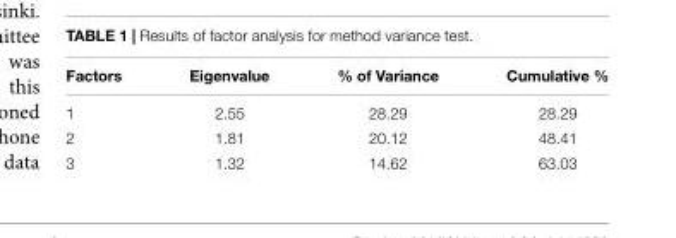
<table><thead><tr><td>Factors</td><td>Eigenvalue</td><td>% of Variance</td><td>Cumulative %</td></tr></thead><tbody><tr><td>1</td><td>2.55</td><td>28.29</td><td>28.29</td></tr><tr><td>2</td><td>1.81</td><td>20.12</td><td>48.41</td></tr><tr><td>3</td><td>1.32</td><td>14.62</td><td>63.03</td></tr></tbody></table>